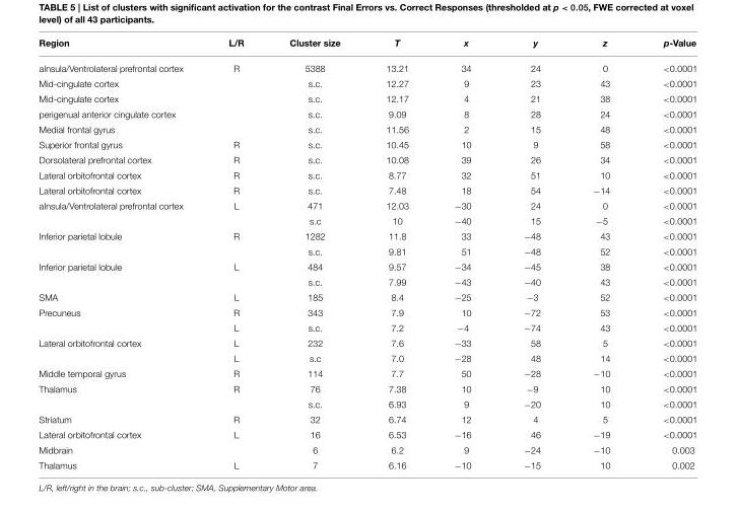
<table><thead><tr><td>Region</td><td>L/R</td><td>Cluster size</td><td>T</td><td>x</td><td>y</td><td>z</td><td>p-Value</td></tr></thead><tbody><tr><td>aInsula/Ventrolateral prefrontal cortex</td><td>R</td><td>5388</td><td>13.21</td><td>34</td><td>24</td><td>0</td><td>&lt;0.0001</td></tr><tr><td>Mid-cingulate cortex</td><td></td><td>s.c.</td><td>12.27</td><td>9</td><td>23</td><td>43</td><td>&lt;0.0001</td></tr><tr><td>Mid-cingulate cortex</td><td></td><td>s.c.</td><td>12.17</td><td>4</td><td>21</td><td>38</td><td>&lt;0.0001</td></tr><tr><td>perigenual anterior cingulate cortex</td><td></td><td>s.c.</td><td>9.09</td><td>8</td><td>28</td><td>24</td><td>&lt;0.0001</td></tr><tr><td>Medial frontal gyrus</td><td></td><td>s.c.</td><td>11.56</td><td>2</td><td>15</td><td>48</td><td>&lt;0.0001</td></tr><tr><td>Superior frontal gyrus</td><td>R</td><td>s.c.</td><td>10.45</td><td>10</td><td>9</td><td>58</td><td>&lt;0.0001</td></tr><tr><td>Dorsolateral prefrontal cortex</td><td>R</td><td>s.c.</td><td>10.08</td><td>39</td><td>26</td><td>34</td><td>&lt;0.0001</td></tr><tr><td>Lateral orbitofrontal cortex</td><td>R</td><td>s.c.</td><td>8.77</td><td>32</td><td>51</td><td>10</td><td>&lt;0.0001</td></tr><tr><td>Lateral orbitofrontal cortex</td><td>R</td><td>s.c.</td><td>7.48</td><td>18</td><td>54</td><td>−14</td><td>&lt;0.0001</td></tr><tr><td rowspan="2">aInsula/Ventrolateral prefrontal cortex</td><td>L</td><td>471</td><td>12.03</td><td>−30</td><td>24</td><td>0</td><td>&lt;0.0001</td></tr><tr><td></td><td>s.c</td><td>10</td><td>−40</td><td>15</td><td>−5</td><td>&lt;0.0001</td></tr><tr><td rowspan="2">Inferior parietal lobule</td><td>R</td><td>1282</td><td>11.8</td><td>33</td><td>−48</td><td>43</td><td>&lt;0.0001</td></tr><tr><td></td><td>s.c.</td><td>9.81</td><td>51</td><td>−48</td><td>52</td><td>&lt;0.0001</td></tr><tr><td rowspan="2">Inferior parietal lobule</td><td>L</td><td>484</td><td>9.57</td><td>−34</td><td>−45</td><td>38</td><td>&lt;0.0001</td></tr><tr><td></td><td>s.c.</td><td>7.99</td><td>−43</td><td>−40</td><td>43</td><td>&lt;0.0001</td></tr><tr><td>SMA</td><td>L</td><td>185</td><td>8.4</td><td>−25</td><td>−3</td><td>52</td><td>&lt;0.0001</td></tr><tr><td rowspan="2">Precuneus</td><td>R</td><td>343</td><td>7.9</td><td>10</td><td>−72</td><td>53</td><td>&lt;0.0001</td></tr><tr><td>L</td><td>s.c.</td><td>7.2</td><td>−4</td><td>−74</td><td>43</td><td>&lt;0.0001</td></tr><tr><td rowspan="2">Lateral orbitofrontal cortex</td><td>L</td><td>232</td><td>7.6</td><td>−33</td><td>58</td><td>5</td><td>&lt;0.0001</td></tr><tr><td>L</td><td>s.c</td><td>7.0</td><td>−28</td><td>48</td><td>14</td><td>&lt;0.0001</td></tr><tr><td>Middle temporal gyrus</td><td>R</td><td>114</td><td>7.7</td><td>50</td><td>−28</td><td>−10</td><td>&lt;0.0001</td></tr><tr><td rowspan="2">Thalamus</td><td>R</td><td>76</td><td>7.38</td><td>10</td><td>−9</td><td>10</td><td>&lt;0.0001</td></tr><tr><td></td><td>s.c.</td><td>6.93</td><td>9</td><td>−20</td><td>10</td><td>&lt;0.0001</td></tr><tr><td>Striatum</td><td>R</td><td>32</td><td>6.74</td><td>12</td><td>4</td><td>5</td><td>&lt;0.0001</td></tr><tr><td>Lateral orbitofrontal cortex</td><td>L</td><td>16</td><td>6.53</td><td>−16</td><td>46</td><td>−19</td><td>&lt;0.0001</td></tr><tr><td>Midbrain</td><td></td><td>6</td><td>6.2</td><td>9</td><td>−24</td><td>−10</td><td>0.003</td></tr><tr><td>Thalamus</td><td>L</td><td>7</td><td>6.16</td><td>−10</td><td>−15</td><td>10</td><td>0.002</td></tr></tbody></table>